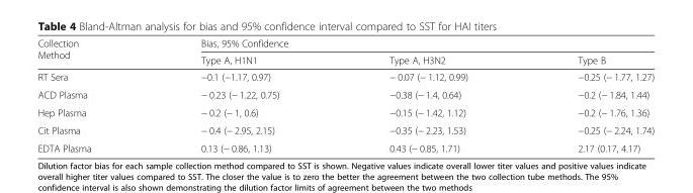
<table><thead><tr><td rowspan="2">Collection Method</td><td colspan="3">Bias, 95% Confidence</td></tr><tr><td>Type A, H1N1</td><td>Type A, H3N2</td><td>Type B</td></tr></thead><tbody><tr><td>RT Sera</td><td>−0.1 (−1.17, 0.97)</td><td>− 0.07 (− 1.12, 0.99)</td><td>−0.25 (− 1.77, 1.27)</td></tr><tr><td>ACD Plasma</td><td>− 0.23 (− 1.22, 0.75)</td><td>−0.38 (− 1.4, 0.64)</td><td>−0.2 (− 1.84, 1.44)</td></tr><tr><td>Hep Plasma</td><td>− 0.2 (− 1, 0.6)</td><td>−0.15 (− 1.42, 1.12)</td><td>−0.2 (− 1.76, 1.36)</td></tr><tr><td>Cit Plasma</td><td>− 0.4 (− 2.95, 2.15)</td><td>−0.35 (− 2.23, 1.53)</td><td>−0.25 (− 2.24, 1.74)</td></tr><tr><td>EDTA Plasma</td><td>0.13 (− 0.86, 1.13)</td><td>0.43 (− 0.85, 1.71)</td><td>2.17 (0.17, 4.17)</td></tr></tbody></table>